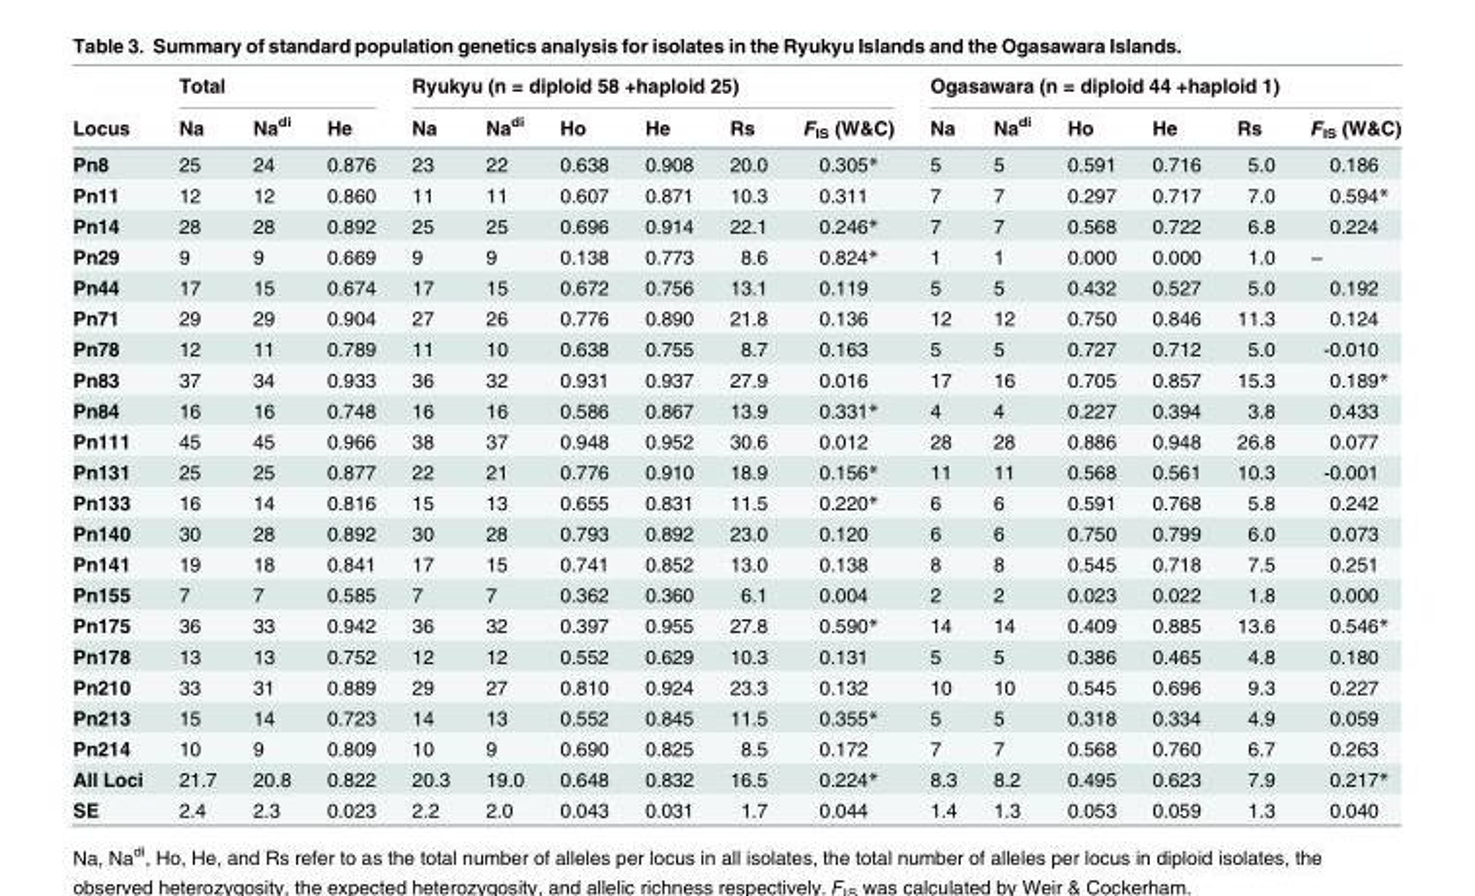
<table><thead><tr><td rowspan="2">Locus</td><td colspan="3">Total</td><td colspan="6">Ryukyu (n = diploid 58 +haploid 25)</td><td colspan="6">Ogasawara (n = diploid 44 +haploid 1)</td></tr><tr><td>Na</td><td>Na<sup>di</sup></td><td>He</td><td>Na</td><td>Na<sup>di</sup></td><td>Ho</td><td>He</td><td>Rs</td><td>F<sub>IS</sub> (W&amp;C)</td><td>Na</td><td>Na<sup>di</sup></td><td>Ho</td><td>He</td><td>Rs</td><td>F<sub>IS</sub> (W&amp;C)</td></tr></thead><tbody><tr><td>Pn8</td><td>25</td><td>24</td><td>0.876</td><td>23</td><td>22</td><td>0.638</td><td>0.908</td><td>20.0</td><td>0.305*</td><td>5</td><td>5</td><td>0.591</td><td>0.716</td><td>5.0</td><td>0.186</td></tr><tr><td>Pn11</td><td>12</td><td>12</td><td>0.860</td><td>11</td><td>11</td><td>0.607</td><td>0.871</td><td>10.3</td><td>0.311</td><td>7</td><td>7</td><td>0.297</td><td>0.717</td><td>7.0</td><td>0.594*</td></tr><tr><td>Pn14</td><td>28</td><td>28</td><td>0.892</td><td>25</td><td>25</td><td>0.696</td><td>0.914</td><td>22.1</td><td>0.246*</td><td>7</td><td>7</td><td>0.568</td><td>0.722</td><td>6.8</td><td>0.224</td></tr><tr><td>Pn29</td><td>9</td><td>9</td><td>0.669</td><td>9</td><td>9</td><td>0.138</td><td>0.773</td><td>8.6</td><td>0.824*</td><td>1</td><td>1</td><td>0.000</td><td>0.000</td><td>1.0</td><td>–</td></tr><tr><td>Pn44</td><td>17</td><td>15</td><td>0.674</td><td>17</td><td>15</td><td>0.672</td><td>0.756</td><td>13.1</td><td>0.119</td><td>5</td><td>5</td><td>0.432</td><td>0.527</td><td>5.0</td><td>0.192</td></tr><tr><td>Pn71</td><td>29</td><td>29</td><td>0.904</td><td>27</td><td>26</td><td>0.776</td><td>0.890</td><td>21.8</td><td>0.136</td><td>12</td><td>12</td><td>0.750</td><td>0.846</td><td>11.3</td><td>0.124</td></tr><tr><td>Pn78</td><td>12</td><td>11</td><td>0.789</td><td>11</td><td>10</td><td>0.638</td><td>0.755</td><td>8.7</td><td>0.163</td><td>5</td><td>5</td><td>0.727</td><td>0.712</td><td>5.0</td><td>-0.010</td></tr><tr><td>Pn83</td><td>37</td><td>34</td><td>0.933</td><td>36</td><td>32</td><td>0.931</td><td>0.937</td><td>27.9</td><td>0.016</td><td>17</td><td>16</td><td>0.705</td><td>0.857</td><td>15.3</td><td>0.189*</td></tr><tr><td>Pn84</td><td>16</td><td>16</td><td>0.748</td><td>16</td><td>16</td><td>0.586</td><td>0.867</td><td>13.9</td><td>0.331*</td><td>4</td><td>4</td><td>0.227</td><td>0.394</td><td>3.8</td><td>0.433</td></tr><tr><td>Pn111</td><td>45</td><td>45</td><td>0.966</td><td>38</td><td>37</td><td>0.948</td><td>0.952</td><td>30.6</td><td>0.012</td><td>28</td><td>28</td><td>0.886</td><td>0.948</td><td>26.8</td><td>0.077</td></tr><tr><td>Pn131</td><td>25</td><td>25</td><td>0.877</td><td>22</td><td>21</td><td>0.776</td><td>0.910</td><td>18.9</td><td>0.156*</td><td>11</td><td>11</td><td>0.568</td><td>0.561</td><td>10.3</td><td>-0.001</td></tr><tr><td>Pn133</td><td>16</td><td>14</td><td>0.816</td><td>15</td><td>13</td><td>0.655</td><td>0.831</td><td>11.5</td><td>0.220*</td><td>6</td><td>6</td><td>0.591</td><td>0.768</td><td>5.8</td><td>0.242</td></tr><tr><td>Pn140</td><td>30</td><td>28</td><td>0.892</td><td>30</td><td>28</td><td>0.793</td><td>0.892</td><td>23.0</td><td>0.120</td><td>6</td><td>6</td><td>0.750</td><td>0.799</td><td>6.0</td><td>0.073</td></tr><tr><td>Pn141</td><td>19</td><td>18</td><td>0.841</td><td>17</td><td>15</td><td>0.741</td><td>0.852</td><td>13.0</td><td>0.138</td><td>8</td><td>8</td><td>0.545</td><td>0.718</td><td>7.5</td><td>0.251</td></tr><tr><td>Pn155</td><td>7</td><td>7</td><td>0.585</td><td>7</td><td>7</td><td>0.362</td><td>0.360</td><td>6.1</td><td>0.004</td><td>2</td><td>2</td><td>0.023</td><td>0.022</td><td>1.8</td><td>0.000</td></tr><tr><td>Pn175</td><td>36</td><td>33</td><td>0.942</td><td>36</td><td>32</td><td>0.397</td><td>0.955</td><td>27.8</td><td>0.590*</td><td>14</td><td>14</td><td>0.409</td><td>0.885</td><td>13.6</td><td>0.546*</td></tr><tr><td>Pn178</td><td>13</td><td>13</td><td>0.752</td><td>12</td><td>12</td><td>0.552</td><td>0.629</td><td>10.3</td><td>0.131</td><td>5</td><td>5</td><td>0.386</td><td>0.465</td><td>4.8</td><td>0.180</td></tr><tr><td>Pn210</td><td>33</td><td>31</td><td>0.889</td><td>29</td><td>27</td><td>0.810</td><td>0.924</td><td>23.3</td><td>0.132</td><td>10</td><td>10</td><td>0.545</td><td>0.696</td><td>9.3</td><td>0.227</td></tr><tr><td>Pn213</td><td>15</td><td>14</td><td>0.723</td><td>14</td><td>13</td><td>0.552</td><td>0.845</td><td>11.5</td><td>0.355*</td><td>5</td><td>5</td><td>0.318</td><td>0.334</td><td>4.9</td><td>0.059</td></tr><tr><td>Pn214</td><td>10</td><td>9</td><td>0.809</td><td>10</td><td>9</td><td>0.690</td><td>0.825</td><td>8.5</td><td>0.172</td><td>7</td><td>7</td><td>0.568</td><td>0.760</td><td>6.7</td><td>0.263</td></tr><tr><td>All Loci</td><td>21.7</td><td>20.8</td><td>0.822</td><td>20.3</td><td>19.0</td><td>0.648</td><td>0.832</td><td>16.5</td><td>0.224*</td><td>8.3</td><td>8.2</td><td>0.495</td><td>0.623</td><td>7.9</td><td>0.217*</td></tr><tr><td>SE</td><td>2.4</td><td>2.3</td><td>0.023</td><td>2.2</td><td>2.0</td><td>0.043</td><td>0.031</td><td>1.7</td><td>0.044</td><td>1.4</td><td>1.3</td><td>0.053</td><td>0.059</td><td>1.3</td><td>0.040</td></tr></tbody></table>